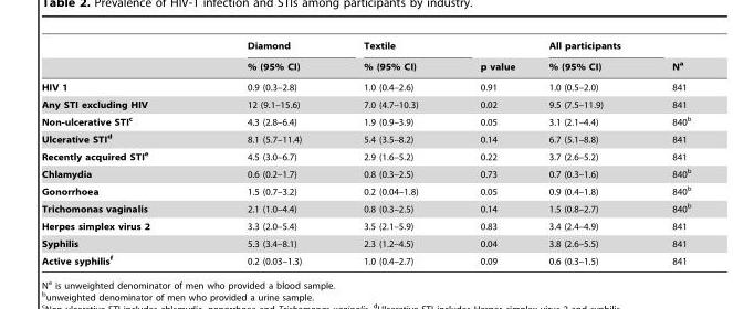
<table><thead><tr><td rowspan="2"></td><td rowspan="2">Diamond % (95% CI)</td><td rowspan="2">Textile % (95% CI)</td><td rowspan="2">p value</td><td rowspan="2">All participants % (95% CI)</td><td rowspan="2">N<sup>a</sup></td></tr><tr></tr></thead><tbody><tr><td>HIV 1</td><td>0.9 (0.3–2.8)</td><td>1.0 (0.4–2.6)</td><td>0.91</td><td>1.0 (0.5–2.0)</td><td>841</td></tr><tr><td>Any STI excluding HIV</td><td>12 (9.1–15.6)</td><td>7.0 (4.7–10.3)</td><td>0.02</td><td>9.5 (7.5–11.9)</td><td>841</td></tr><tr><td>Non-ulcerative STIc</td><td>4.3 (2.8–6.4)</td><td>1.9 (0.9–3.9)</td><td>0.05</td><td>3.1 (2.1–4.4)</td><td>840<sup>b</sup></td></tr><tr><td>Ulcerative STI<sup>d</sup></td><td>8.1 (5.7–11.4)</td><td>5.4 (3.5–8.2)</td><td>0.14</td><td>6.7 (5.1–8.8)</td><td>841</td></tr><tr><td>Recently acquired STIe</td><td>4.5 (3.0–6.7)</td><td>2.9 (1.6–5.2)</td><td>0.22</td><td>3.7 (2.6–5.2)</td><td>841</td></tr><tr><td>Chlamydia</td><td>0.6 (0.2–1.7)</td><td>0.8 (0.3–2.5)</td><td>0.73</td><td>0.7 (0.3–1.6)</td><td>840<sup>b</sup></td></tr><tr><td>Gonorrhoea</td><td>1.5 (0.7–3.2)</td><td>0.2 (0.04–1.8)</td><td>0.05</td><td>0.9 (0.4–1.8)</td><td>840<sup>b</sup></td></tr><tr><td>Trichomonas vaginalis</td><td>2.1 (1.0–4.4)</td><td>0.8 (0.3–2.5)</td><td>0.14</td><td>1.5 (0.8–2.7)</td><td>840<sup>b</sup></td></tr><tr><td>Herpes simplex virus 2</td><td>3.3 (2.0–5.4)</td><td>3.5 (2.1–5.9)</td><td>0.83</td><td>3.4 (2.4–4.9)</td><td>841</td></tr><tr><td>Syphilis</td><td>5.3 (3.4–8.1)</td><td>2.3 (1.2–4.5)</td><td>0.04</td><td>3.8 (2.6–5.5)</td><td>841</td></tr><tr><td>Active syphilisf</td><td>0.2 (0.03–1.3)</td><td>1.0 (0.4–2.7)</td><td>0.09</td><td>0.6 (0.3–1.5)</td><td>841</td></tr></tbody></table>